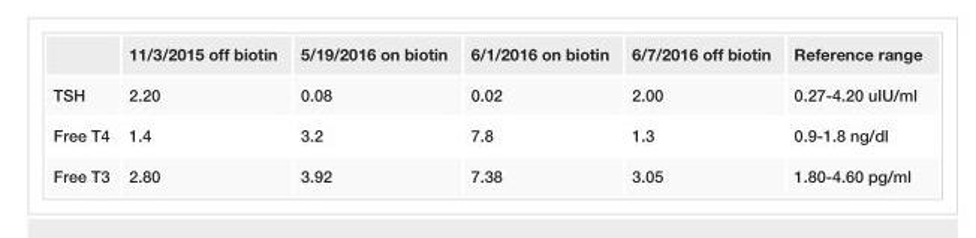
<table><thead><tr><td></td><td>11/3/2015 off biotin</td><td>5/19/2016 on biotin</td><td>6/1/2016 on biotin</td><td>6/7/2016 off biotin</td><td>Reference range</td></tr></thead><tbody><tr><td>TSH</td><td>2.20</td><td>0.08</td><td>0.02</td><td>2.00</td><td>0.27-4.20 uIU/ml</td></tr><tr><td>Free T4</td><td>1.4</td><td>3.2</td><td>7.8</td><td>1.3</td><td>0.9-1.8 ng/dl</td></tr><tr><td>Free T3</td><td>2.80</td><td>3.92</td><td>7.38</td><td>3.05</td><td>1.80-4.60 pg/ml</td></tr></tbody></table>